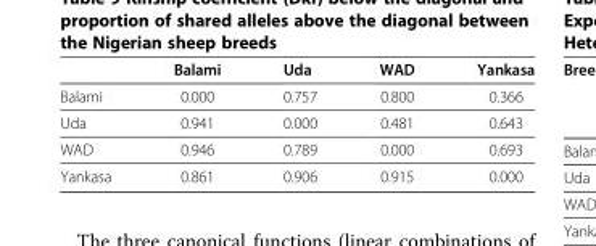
<table><thead><tr><td></td><td>Balami</td><td>Uda</td><td>WAD</td><td>Yankasa</td></tr></thead><tbody><tr><td>Balami</td><td>0.000</td><td>0.757</td><td>0.800</td><td>0.366</td></tr><tr><td>Uda</td><td>0.941</td><td>0.000</td><td>0.481</td><td>0.643</td></tr><tr><td>WAD</td><td>0.946</td><td>0.789</td><td>0.000</td><td>0.693</td></tr><tr><td>Yankasa</td><td>0.861</td><td>0.906</td><td>0.915</td><td>0.000</td></tr></tbody></table>